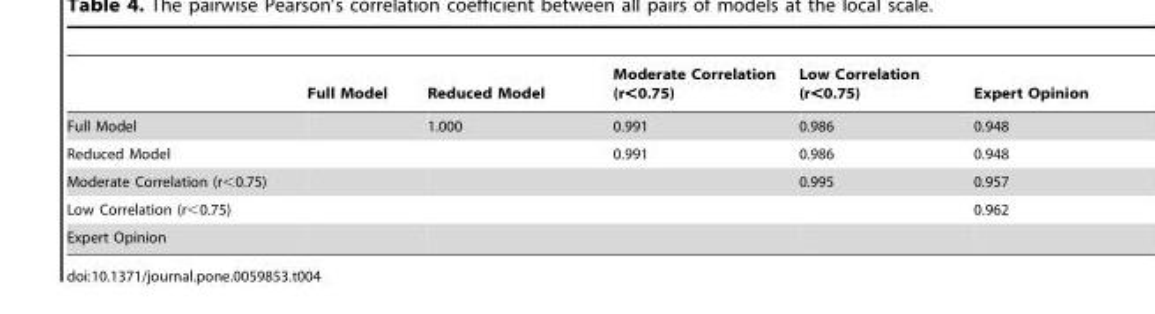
<table><thead><tr><td></td><td>Full Model</td><td>Reduced Model</td><td>Moderate Correlation (r&lt;0.75)</td><td>Low Correlation (r&lt;0.75)</td><td>Expert Opinion</td></tr></thead><tbody><tr><td>Full Model</td><td></td><td>1.000</td><td>0.991</td><td>0.986</td><td>0.948</td></tr><tr><td>Reduced Model</td><td></td><td></td><td>0.991</td><td>0.986</td><td>0.948</td></tr><tr><td>Moderate Correlation (r&lt;0.75)</td><td></td><td></td><td></td><td>0.995</td><td>0.957</td></tr><tr><td>Low Correlation (r&lt;0.75)</td><td></td><td></td><td></td><td></td><td>0.962</td></tr><tr><td>Expert Opinion</td><td></td><td></td><td></td><td></td><td></td></tr></tbody></table>